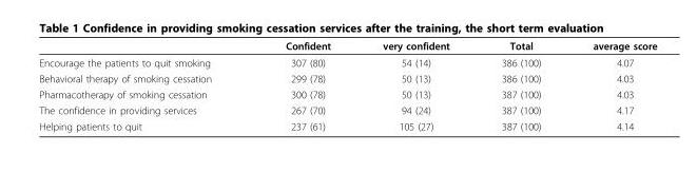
<table><thead><tr><td></td><td>Confident</td><td>very confident</td><td>Total</td><td>average score</td></tr></thead><tbody><tr><td>Encourage the patients to quit smoking</td><td>307 (80)</td><td>54 (14)</td><td>386 (100)</td><td>4.07</td></tr><tr><td>Behavioral therapy of smoking cessation</td><td>299 (78)</td><td>50 (13)</td><td>386 (100)</td><td>4.03</td></tr><tr><td>Pharmacotherapy of smoking cessation</td><td>300 (78)</td><td>50 (13)</td><td>387 (100)</td><td>4.03</td></tr><tr><td>The confidence in providing services</td><td>267 (70)</td><td>94 (24)</td><td>387 (100)</td><td>4.17</td></tr><tr><td>Helping patients to quit</td><td>237 (61)</td><td>105 (27)</td><td>387 (100)</td><td>4.14</td></tr></tbody></table>